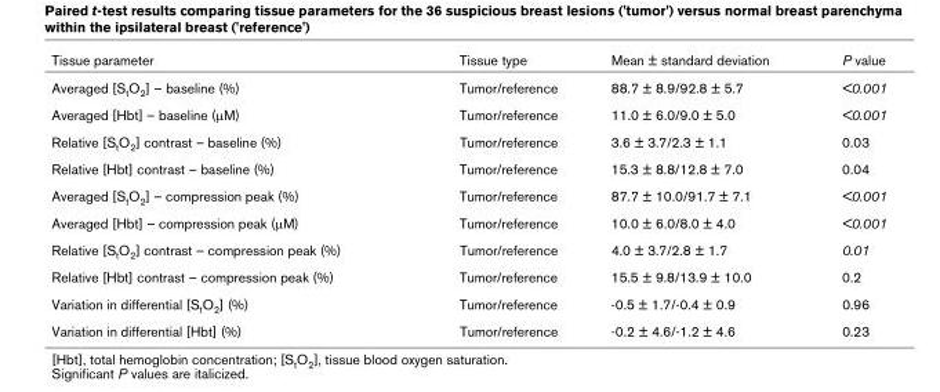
<table><thead><tr><td>Tissue parameter</td><td>Tissue type</td><td>Mean ± standard deviation</td><td>P value</td></tr></thead><tbody><tr><td>Averaged [S<sub>t</sub>O<sub>2</sub>] – baseline (%)</td><td>Tumor/reference</td><td>88.7 ± 8.9/92.8 ± 5.7</td><td>&lt;0.001</td></tr><tr><td>Averaged [Hbt] – baseline (μM)</td><td>Tumor/reference</td><td>11.0 ± 6.0/9.0 ± 5.0</td><td>&lt;0.001</td></tr><tr><td>Relative [S<sub>t</sub>O<sub>2</sub>] contrast – baseline (%)</td><td>Tumor/reference</td><td>3.6 ± 3.7/2.3 ± 1.1</td><td>0.03</td></tr><tr><td>Relative [Hbt] contrast – baseline (%)</td><td>Tumor/reference</td><td>15.3 ± 8.8/12.8 ± 7.0</td><td>0.04</td></tr><tr><td>Averaged [S<sub>t</sub>O<sub>2</sub>] – compression peak (%)</td><td>Tumor/reference</td><td>87.7 ± 10.0/91.7 ± 7.1</td><td>&lt;0.001</td></tr><tr><td>Averaged [Hbt] – compression peak (μM)</td><td>Tumor/reference</td><td>10.0 ± 6.0/8.0 ± 4.0</td><td>&lt;0.001</td></tr><tr><td>Relative [S<sub>t</sub>O<sub>2</sub>] contrast – compression peak (%)</td><td>Tumor/reference</td><td>4.0 ± 3.7/2.8 ± 1.7</td><td>0.01</td></tr><tr><td>Relative [Hbt] contrast – compression peak (%)</td><td>Tumor/reference</td><td>15.5 ± 9.8/13.9 ± 10.0</td><td>0.2</td></tr><tr><td>Variation in differential [S<sub>t</sub>O<sub>2</sub>] (%)</td><td>Tumor/reference</td><td>-0.5 ± 1.7/-0.4 ± 0.9</td><td>0.96</td></tr><tr><td>Variation in differential [Hbt] (%)</td><td>Tumor/reference</td><td>-0.2 ± 4.6/-1.2 ± 4.6</td><td>0.23</td></tr></tbody></table>